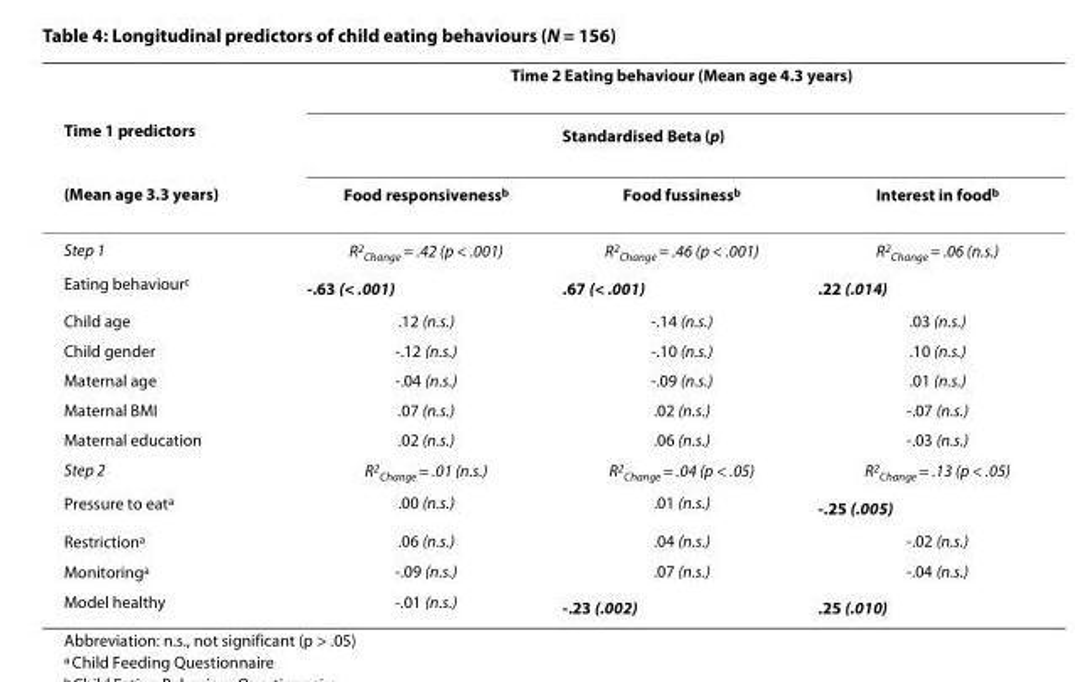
<table><thead><tr><td rowspan="3">Time 1 predictors (Mean age 3.3 years)</td><td colspan="3">Time 2 Eating behaviour (Mean age 4.3 years)</td></tr><tr><td rowspan="2">Food responsiveness<sup>b</sup></td><td rowspan="2">Standardised Beta (p) Food fussiness<sup>b</sup></td><td rowspan="2">Interest in food<sup>b</sup></td></tr><tr></tr></thead><tbody><tr><td>Step 1</td><td>R<sup>2</sup><sub>Change</sub> = .42 (p &lt; .001)</td><td>R<sup>2</sup><sub>Change</sub> = .46 (p &lt; .001)</td><td>R<sup>2</sup><sub>Change</sub> = .06 (n.s.)</td></tr><tr><td>Eating behaviour<sup>c</sup></td><td>-.63 (&lt; .001)</td><td>.67 (&lt; .001)</td><td>.22 (.014)</td></tr><tr><td>Child age</td><td>.12 (n.s.)</td><td>-.14 (n.s.)</td><td>.03 (n.s.)</td></tr><tr><td>Child gender</td><td>-.12 (n.s.)</td><td>-.10 (n.s.)</td><td>.10 (n.s.)</td></tr><tr><td>Maternal age</td><td>-.04 (n.s.)</td><td>-.09 (n.s.)</td><td>.01 (n.s.)</td></tr><tr><td>Maternal BMI</td><td>.07 (n.s.)</td><td>.02 (n.s.)</td><td>-.07 (n.s.)</td></tr><tr><td>Maternal education</td><td>.02 (n.s.)</td><td>.06 (n.s.)</td><td>-.03 (n.s.)</td></tr><tr><td>Step 2</td><td>R<sup>2</sup><sub>Change</sub> = .01 (n.s.)</td><td>R<sup>2</sup><sub>Change</sub> = .04 (p &lt; .05)</td><td>R<sup>2</sup><sub>Change</sub> = .13 (p &lt; .05)</td></tr><tr><td>Pressure to eat<sup>a</sup></td><td>.00 (n.s.)</td><td>.01 (n.s.)</td><td>-.25 (.005)</td></tr><tr><td>Restriction<sup>a</sup></td><td>.06 (n.s.)</td><td>.04 (n.s.)</td><td>-.02 (n.s.)</td></tr><tr><td>Monitoring<sup>a</sup></td><td>-.09 (n.s.)</td><td>.07 (n.s.)</td><td>-.04 (n.s.)</td></tr><tr><td>Model healthy</td><td>-.01 (n.s.)</td><td>-.23 (.002)</td><td>.25 (.010)</td></tr></tbody></table>